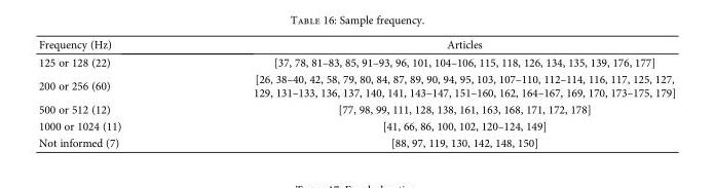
<table><thead><tr><td>Frequency (Hz)</td><td>Articles</td></tr></thead><tbody><tr><td>125 or 128 (22)</td><td>[37, 78, 81–83, 85, 91–93, 96, 101, 104–106, 115, 118, 126, 134, 135, 139, 176, 177]</td></tr><tr><td>200 or 256 (60)</td><td>[26, 38–40, 42, 58, 79, 80, 84, 87, 89, 90, 94, 95, 103, 107–110, 112–114, 116, 117, 125, 127, 129, 131–133, 136, 137, 140, 141, 143–147, 151–160, 162, 164–167, 169, 170, 173–175, 179]</td></tr><tr><td>500 or 512 (12)</td><td>[77, 98, 99, 111, 128, 138, 161, 163, 168, 171, 172, 178]</td></tr><tr><td>1000 or 1024 (11)</td><td>[41, 66, 86, 100, 102, 120–124, 149]</td></tr><tr><td>Not informed (7)</td><td>[88, 97, 119, 130, 142, 148, 150]</td></tr></tbody></table>